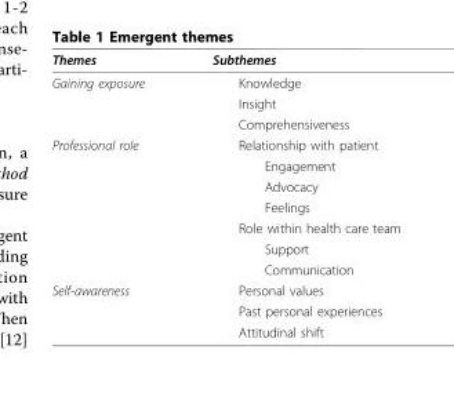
<table><thead><tr><td>Themes</td><td>Subthemes</td></tr></thead><tbody><tr><td rowspan="3">Gaining exposure</td><td>Knowledge</td></tr><tr><td>Insight</td></tr><tr><td>Comprehensiveness</td></tr><tr><td rowspan="7">Professional role</td><td>Relationship with patient</td></tr><tr><td>Engagement</td></tr><tr><td>Advocacy</td></tr><tr><td>Feelings</td></tr><tr><td>Role within health care team</td></tr><tr><td>Support</td></tr><tr><td>Communication</td></tr><tr><td rowspan="3">Self-awareness</td><td>Personal values</td></tr><tr><td>Past personal experiences</td></tr><tr><td>Attitudinal shift</td></tr></tbody></table>